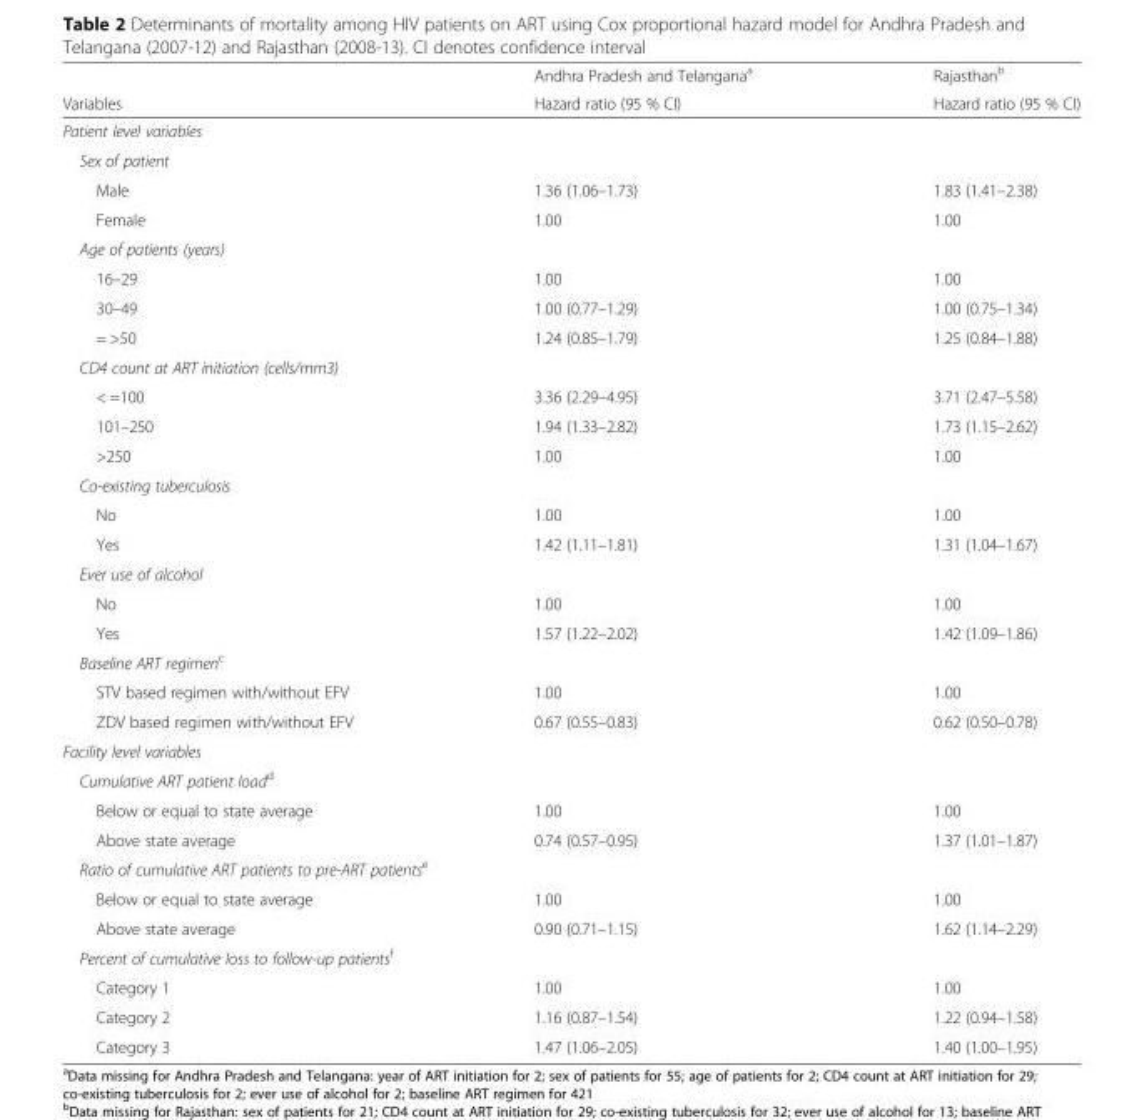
<table><thead><tr><td rowspan="2">Variables</td><td rowspan="2">Andhra Pradesh and Telangana<sup>a</sup> Hazard ratio (95 % CI)</td><td rowspan="2">Rajasthan<sup>b</sup> Hazard ratio (95 % CI)</td></tr><tr></tr></thead><tbody><tr><td colspan="3">Patient level variables</td></tr><tr><td colspan="3">Sex of patient</td></tr><tr><td>Male</td><td>1.36 (1.06–1.73)</td><td>1.83 (1.41–2.38)</td></tr><tr><td>Female</td><td>1.00</td><td>1.00</td></tr><tr><td colspan="3">Age of patients (years)</td></tr><tr><td>16–29</td><td>1.00</td><td>1.00</td></tr><tr><td>30–49</td><td>1.00 (0.77–1.29)</td><td>1.00 (0.75–1.34)</td></tr><tr><td>= &gt;50</td><td>1.24 (0.85–1.79)</td><td>1.25 (0.84–1.88)</td></tr><tr><td colspan="3">CD4 count at ART initiation (cells/mm3)</td></tr><tr><td>&lt; =100</td><td>3.36 (2.29–4.95)</td><td>3.71 (2.47–5.58)</td></tr><tr><td>101–250</td><td>1.94 (1.33–2.82)</td><td>1.73 (1.15–2.62)</td></tr><tr><td>&gt;250</td><td>1.00</td><td>1.00</td></tr><tr><td colspan="3">Co-existing tuberculosis</td></tr><tr><td>No</td><td>1.00</td><td>1.00</td></tr><tr><td>Yes</td><td>1.42 (1.11–1.81)</td><td>1.31 (1.04–1.67)</td></tr><tr><td colspan="3">Ever use of alcohol</td></tr><tr><td>No</td><td>1.00</td><td>1.00</td></tr><tr><td>Yes</td><td>1.57 (1.22–2.02)</td><td>1.42 (1.09–1.86)</td></tr><tr><td colspan="3">Baseline ART regimen<sup>c</sup></td></tr><tr><td>STV based regimen with/without EFV</td><td>1.00</td><td>1.00</td></tr><tr><td>ZDV based regimen with/without EFV</td><td>0.67 (0.55–0.83)</td><td>0.62 (0.50–0.78)</td></tr><tr><td colspan="3">Facility level variables</td></tr><tr><td colspan="3">Cumulative ART patient load<sup>d</sup></td></tr><tr><td>Below or equal to state average</td><td>1.00</td><td>1.00</td></tr><tr><td>Above state average</td><td>0.74 (0.57–0.95)</td><td>1.37 (1.01–1.87)</td></tr><tr><td colspan="3">Ratio of cumulative ART patients to pre-ART patients<sup>e</sup></td></tr><tr><td>Below or equal to state average</td><td>1.00</td><td>1.00</td></tr><tr><td>Above state average</td><td>0.90 (0.71–1.15)</td><td>1.62 (1.14–2.29)</td></tr><tr><td colspan="3">Percent of cumulative loss to follow-up patients<sup>f</sup></td></tr><tr><td>Category 1</td><td>1.00</td><td>1.00</td></tr><tr><td>Category 2</td><td>1.16 (0.87–1.54)</td><td>1.22 (0.94–1.58)</td></tr><tr><td>Category 3</td><td>1.47 (1.06–2.05)</td><td>1.40 (1.00–1.95)</td></tr></tbody></table>